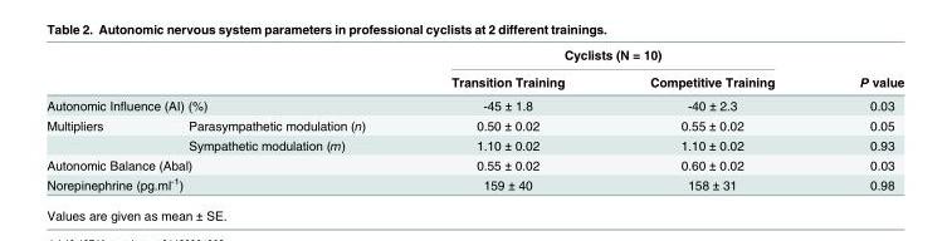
<table><thead><tr><td rowspan="2"></td><td rowspan="2"></td><td colspan="2">Cyclists (N = 10)</td><td rowspan="2">P value</td></tr><tr><td>Transition Training</td><td>Competitive Training</td></tr></thead><tbody><tr><td colspan="2">Autonomic Influence (AI) (%)</td><td>-45 ± 1.8</td><td>-40 ± 2.3</td><td>0.03</td></tr><tr><td rowspan="2">Multipliers</td><td>Parasympathetic modulation (n)</td><td>0.50 ± 0.02</td><td>0.55 ± 0.02</td><td>0.05</td></tr><tr><td>Sympathetic modulation (m)</td><td>1.10 ± 0.02</td><td>1.10 ± 0.02</td><td>0.93</td></tr><tr><td colspan="2">Autonomic Balance (Abal)</td><td>0.55 ± 0.02</td><td>0.60 ± 0.02</td><td>0.03</td></tr><tr><td colspan="2">Norepinephrine (pg.ml<sup>-1</sup>)</td><td>159 ± 40</td><td>158 ± 31</td><td>0.98</td></tr></tbody></table>